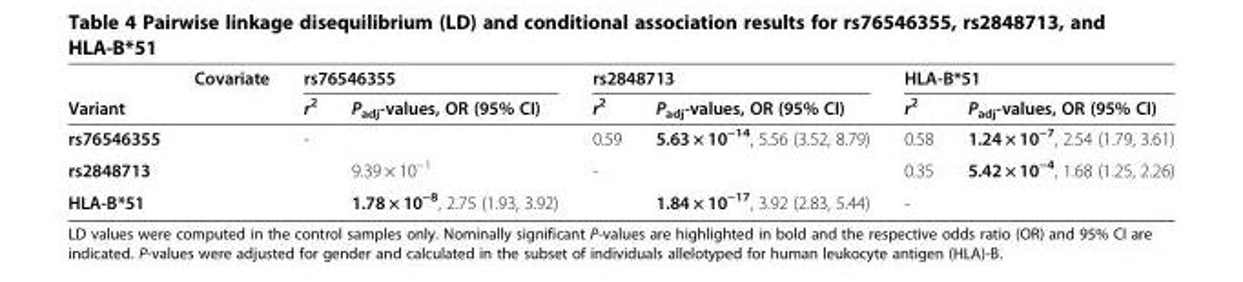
<table><thead><tr><td rowspan="2">Variant</td><td rowspan="2">Covariate</td><td colspan="2">rs76546355</td><td colspan="2">rs2848713</td><td colspan="2">HLA-B*51</td></tr><tr><td>r<sup>2</sup></td><td>P<sub>adj</sub>-values, OR (95% CI)</td><td>r<sup>2</sup></td><td>P<sub>adj</sub>-values, OR (95% CI)</td><td>r<sup>2</sup></td><td>P<sub>adj</sub>-values, OR (95% CI)</td></tr></thead><tbody><tr><td>rs76546355</td><td></td><td>-</td><td></td><td>0.59</td><td>5.63 × 10<sup>−14</sup>, 5.56 (3.52, 8.79)</td><td>0.58</td><td>1.24 × 10<sup>−7</sup>, 2.54 (1.79, 3.61)</td></tr><tr><td>rs2848713</td><td></td><td></td><td>9.39 × 10<sup>−1</sup></td><td>-</td><td></td><td>0.35</td><td>5.42 × 10<sup>−4</sup>, 1.68 (1.25, 2.26)</td></tr><tr><td>HLA-B*51</td><td></td><td></td><td>1.78 × 10<sup>−8</sup>, 2.75 (1.93, 3.92)</td><td></td><td>1.84 × 10<sup>−17</sup>, 3.92 (2.83, 5.44)</td><td>-</td><td></td></tr></tbody></table>